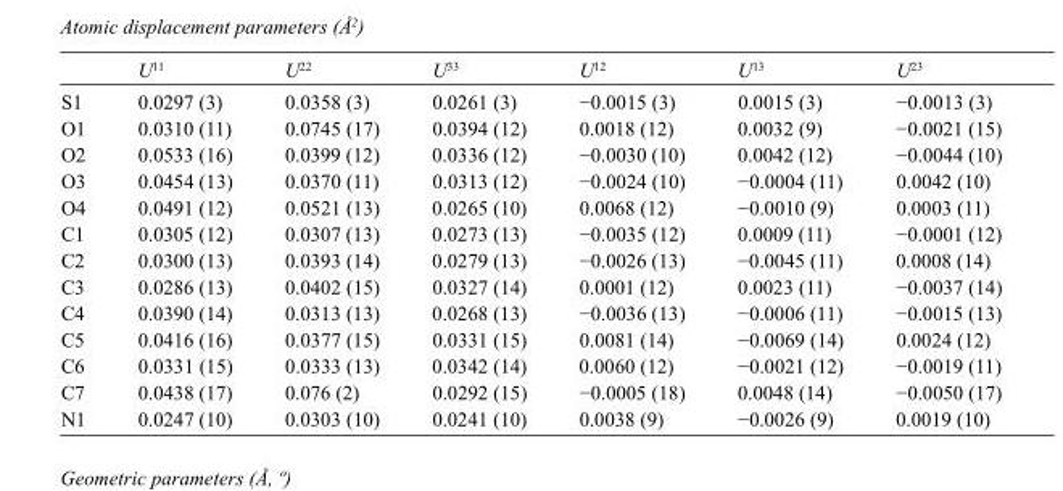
<table><thead><tr><td></td><td>U<sup>11</sup></td><td>U<sup>22</sup></td><td>U<sup>33</sup></td><td>U<sup>12</sup></td><td>U<sup>13</sup></td><td>U<sup>23</sup></td></tr></thead><tbody><tr><td>S1</td><td>0.0297 (3)</td><td>0.0358 (3)</td><td>0.0261 (3)</td><td>−0.0015 (3)</td><td>0.0015 (3)</td><td>−0.0013 (3)</td></tr><tr><td>O1</td><td>0.0310 (11)</td><td>0.0745 (17)</td><td>0.0394 (12)</td><td>0.0018 (12)</td><td>0.0032 (9)</td><td>−0.0021 (15)</td></tr><tr><td>O2</td><td>0.0533 (16)</td><td>0.0399 (12)</td><td>0.0336 (12)</td><td>−0.0030 (10)</td><td>0.0042 (12)</td><td>−0.0044 (10)</td></tr><tr><td>O3</td><td>0.0454 (13)</td><td>0.0370 (11)</td><td>0.0313 (12)</td><td>−0.0024 (10)</td><td>−0.0004 (11)</td><td>0.0042 (10)</td></tr><tr><td>O4</td><td>0.0491 (12)</td><td>0.0521 (13)</td><td>0.0265 (10)</td><td>0.0068 (12)</td><td>−0.0010 (9)</td><td>0.0003 (11)</td></tr><tr><td>C1</td><td>0.0305 (12)</td><td>0.0307 (13)</td><td>0.0273 (13)</td><td>−0.0035 (12)</td><td>0.0009 (11)</td><td>−0.0001 (12)</td></tr><tr><td>C2</td><td>0.0300 (13)</td><td>0.0393 (14)</td><td>0.0279 (13)</td><td>−0.0026 (13)</td><td>−0.0045 (11)</td><td>0.0008 (14)</td></tr><tr><td>C3</td><td>0.0286 (13)</td><td>0.0402 (15)</td><td>0.0327 (14)</td><td>0.0001 (12)</td><td>0.0023 (11)</td><td>−0.0037 (14)</td></tr><tr><td>C4</td><td>0.0390 (14)</td><td>0.0313 (13)</td><td>0.0268 (13)</td><td>−0.0036 (13)</td><td>−0.0006 (11)</td><td>−0.0015 (13)</td></tr><tr><td>C5</td><td>0.0416 (16)</td><td>0.0377 (15)</td><td>0.0331 (15)</td><td>0.0081 (14)</td><td>−0.0069 (14)</td><td>0.0024 (12)</td></tr><tr><td>C6</td><td>0.0331 (15)</td><td>0.0333 (13)</td><td>0.0342 (14)</td><td>0.0060 (12)</td><td>−0.0021 (12)</td><td>−0.0019 (11)</td></tr><tr><td>C7</td><td>0.0438 (17)</td><td>0.076 (2)</td><td>0.0292 (15)</td><td>−0.0005 (18)</td><td>0.0048 (14)</td><td>−0.0050 (17)</td></tr><tr><td>N1</td><td>0.0247 (10)</td><td>0.0303 (10)</td><td>0.0241 (10)</td><td>0.0038 (9)</td><td>−0.0026 (9)</td><td>0.0019 (10)</td></tr></tbody></table>